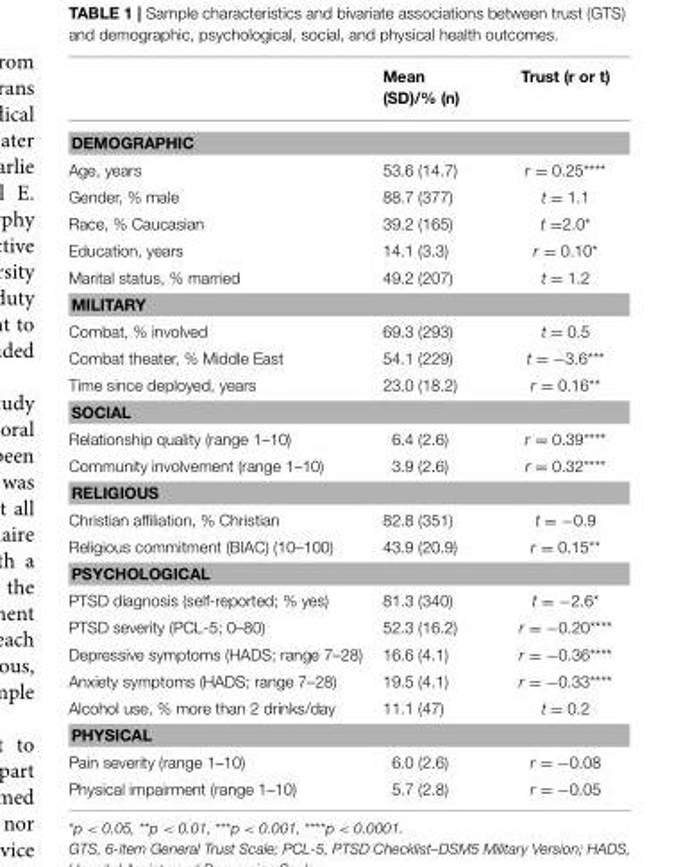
<table><thead><tr><td></td><td>Mean (SD)/% (n)</td><td>Trust (r or t)</td></tr></thead><tbody><tr><td colspan="3">DEMOGRAPHIC</td></tr><tr><td>Age, years</td><td>53.6 (14.7)</td><td>r = 0.25****</td></tr><tr><td>Gender, % male</td><td>88.7 (377)</td><td>t = 1.1</td></tr><tr><td>Race, % Caucasian</td><td>39.2 (165)</td><td>t =2.0*</td></tr><tr><td>Education, years</td><td>14.1 (3.3)</td><td>r = 0.10*</td></tr><tr><td>Marital status, % married</td><td>49.2 (207)</td><td>t = 1.2</td></tr><tr><td colspan="3">MILITARY</td></tr><tr><td>Combat, % involved</td><td>69.3 (293)</td><td>t = 0.5</td></tr><tr><td>Combat theater, % Middle East</td><td>54.1 (229)</td><td>t = −3.6***</td></tr><tr><td>Time since deployed, years</td><td>23.0 (18.2)</td><td>r = 0.16**</td></tr><tr><td colspan="3">SOCIAL</td></tr><tr><td>Relationship quality (range 1–10)</td><td>6.4 (2.6)</td><td>r = 0.39****</td></tr><tr><td>Community involvement (range 1–10)</td><td>3.9 (2.6)</td><td>r = 0.32****</td></tr><tr><td colspan="3">RELIGIOUS</td></tr><tr><td>Christian affiliation, % Christian</td><td>82.8 (351)</td><td>t = −0.9</td></tr><tr><td>Religious commitment (BIAC) (10–100)</td><td>43.9 (20.9)</td><td>r = 0.15**</td></tr><tr><td colspan="3">PSYCHOLOGICAL</td></tr><tr><td>PTSD diagnosis (self-reported; % yes)</td><td>81.3 (340)</td><td>t = −2.6*</td></tr><tr><td>PTSD severity (PCL-5; 0–80)</td><td>52.3 (16.2)</td><td>r = −0.20****</td></tr><tr><td>Depressive symptoms (HADS; range 7–28)</td><td>16.6 (4.1)</td><td>r = −0.36****</td></tr><tr><td>Anxiety symptoms (HADS; range 7–28)</td><td>19.5 (4.1)</td><td>r = −0.33****</td></tr><tr><td>Alcohol use, % more than 2 drinks/day</td><td>11.1 (47)</td><td>t = 0.2</td></tr><tr><td colspan="3">PHYSICAL</td></tr><tr><td>Pain severity (range 1–10)</td><td>6.0 (2.6)</td><td>r = −0.08</td></tr><tr><td>Physical impairment (range 1–10)</td><td>5.7 (2.8)</td><td>r = −0.05</td></tr></tbody></table>